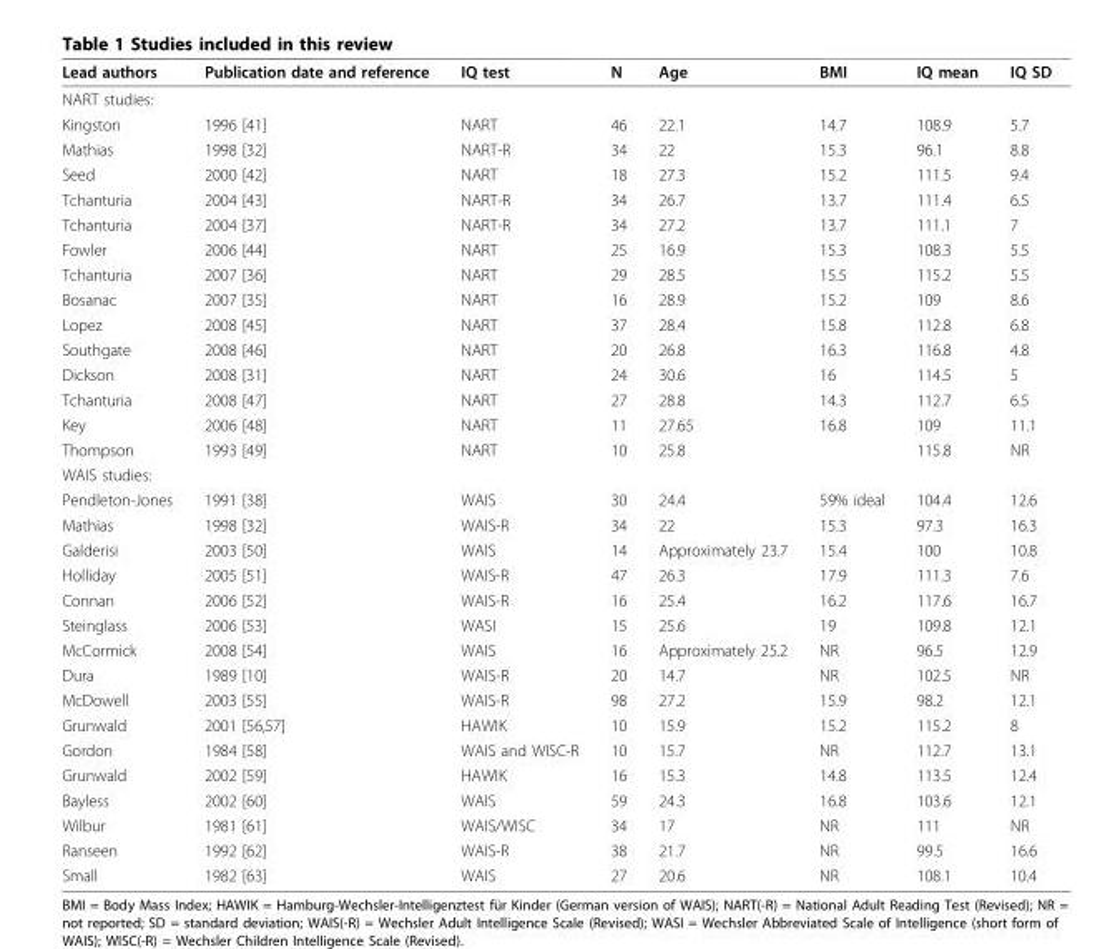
<table><thead><tr><td>Lead authors</td><td>Publication date and reference</td><td>IQ test</td><td>N</td><td>Age</td><td>BMI</td><td>IQ mean</td><td>IQ SD</td></tr></thead><tbody><tr><td colspan="8">NART studies:</td></tr><tr><td>Kingston</td><td>1996 [41]</td><td>NART</td><td>46</td><td>22.1</td><td>14.7</td><td>108.9</td><td>5.7</td></tr><tr><td>Mathias</td><td>1998 [32]</td><td>NART-R</td><td>34</td><td>22</td><td>15.3</td><td>96.1</td><td>8.8</td></tr><tr><td>Seed</td><td>2000 [42]</td><td>NART</td><td>18</td><td>27.3</td><td>15.2</td><td>111.5</td><td>9.4</td></tr><tr><td>Tchanturia</td><td>2004 [43]</td><td>NART-R</td><td>34</td><td>26.7</td><td>13.7</td><td>111.4</td><td>6.5</td></tr><tr><td>Tchanturia</td><td>2004 [37]</td><td>NART-R</td><td>34</td><td>27.2</td><td>13.7</td><td>111.1</td><td>7</td></tr><tr><td>Fowler</td><td>2006 [44]</td><td>NART</td><td>25</td><td>16.9</td><td>15.3</td><td>108.3</td><td>5.5</td></tr><tr><td>Tchanturia</td><td>2007 [36]</td><td>NART</td><td>29</td><td>28.5</td><td>15.5</td><td>115.2</td><td>5.5</td></tr><tr><td>Bosanac</td><td>2007 [35]</td><td>NART</td><td>16</td><td>28.9</td><td>15.2</td><td>109</td><td>8.6</td></tr><tr><td>Lopez</td><td>2008 [45]</td><td>NART</td><td>37</td><td>28.4</td><td>15.8</td><td>112.8</td><td>6.8</td></tr><tr><td>Southgate</td><td>2008 [46]</td><td>NART</td><td>20</td><td>26.8</td><td>16.3</td><td>116.8</td><td>4.8</td></tr><tr><td>Dickson</td><td>2008 [31]</td><td>NART</td><td>24</td><td>30.6</td><td>16</td><td>114.5</td><td>5</td></tr><tr><td>Tchanturia</td><td>2008 [47]</td><td>NART</td><td>27</td><td>28.8</td><td>14.3</td><td>112.7</td><td>6.5</td></tr><tr><td>Key</td><td>2006 [48]</td><td>NART</td><td>11</td><td>27.65</td><td>16.8</td><td>109</td><td>11.1</td></tr><tr><td>Thompson</td><td>1993 [49]</td><td>NART</td><td>10</td><td>25.8</td><td></td><td>115.8</td><td>NR</td></tr><tr><td colspan="8">WAIS studies:</td></tr><tr><td>Pendleton-Jones</td><td>1991 [38]</td><td>WAIS</td><td>30</td><td>24.4</td><td>59% ideal</td><td>104.4</td><td>12.6</td></tr><tr><td>Mathias</td><td>1998 [32]</td><td>WAIS-R</td><td>34</td><td>22</td><td>15.3</td><td>97.3</td><td>16.3</td></tr><tr><td>Galderisi</td><td>2003 [50]</td><td>WAIS</td><td>14</td><td>Approximately 23.7</td><td>15.4</td><td>100</td><td>10.8</td></tr><tr><td>Holliday</td><td>2005 [51]</td><td>WAIS-R</td><td>47</td><td>26.3</td><td>17.9</td><td>111.3</td><td>7.6</td></tr><tr><td>Connan</td><td>2006 [52]</td><td>WAIS-R</td><td>16</td><td>25.4</td><td>16.2</td><td>117.6</td><td>16.7</td></tr><tr><td>Steinglass</td><td>2006 [53]</td><td>WASI</td><td>15</td><td>25.6</td><td>19</td><td>109.8</td><td>12.1</td></tr><tr><td>McCormick</td><td>2008 [54]</td><td>WAIS</td><td>16</td><td>Approximately 25.2</td><td>NR</td><td>96.5</td><td>12.9</td></tr><tr><td>Dura</td><td>1989 [10]</td><td>WAIS-R</td><td>20</td><td>14.7</td><td>NR</td><td>102.5</td><td>NR</td></tr><tr><td>McDowell</td><td>2003 [55]</td><td>WAIS-R</td><td>98</td><td>27.2</td><td>15.9</td><td>98.2</td><td>12.1</td></tr><tr><td>Grunwald</td><td>2001 [56,57]</td><td>HAWIK</td><td>10</td><td>15.9</td><td>15.2</td><td>115.2</td><td>8</td></tr><tr><td>Gordon</td><td>1984 [58]</td><td>WAIS and WISC-R</td><td>10</td><td>15.7</td><td>NR</td><td>112.7</td><td>13.1</td></tr><tr><td>Grunwald</td><td>2002 [59]</td><td>HAWIK</td><td>16</td><td>15.3</td><td>14.8</td><td>113.5</td><td>12.4</td></tr><tr><td>Bayless</td><td>2002 [60]</td><td>WAIS</td><td>59</td><td>24.3</td><td>16.8</td><td>103.6</td><td>12.1</td></tr><tr><td>Wilbur</td><td>1981 [61]</td><td>WAIS/WISC</td><td>34</td><td>17</td><td>NR</td><td>111</td><td>NR</td></tr><tr><td>Ranseen</td><td>1992 [62]</td><td>WAIS-R</td><td>38</td><td>21.7</td><td>NR</td><td>99.5</td><td>16.6</td></tr><tr><td>Small</td><td>1982 [63]</td><td>WAIS</td><td>27</td><td>20.6</td><td>NR</td><td>108.1</td><td>10.4</td></tr></tbody></table>